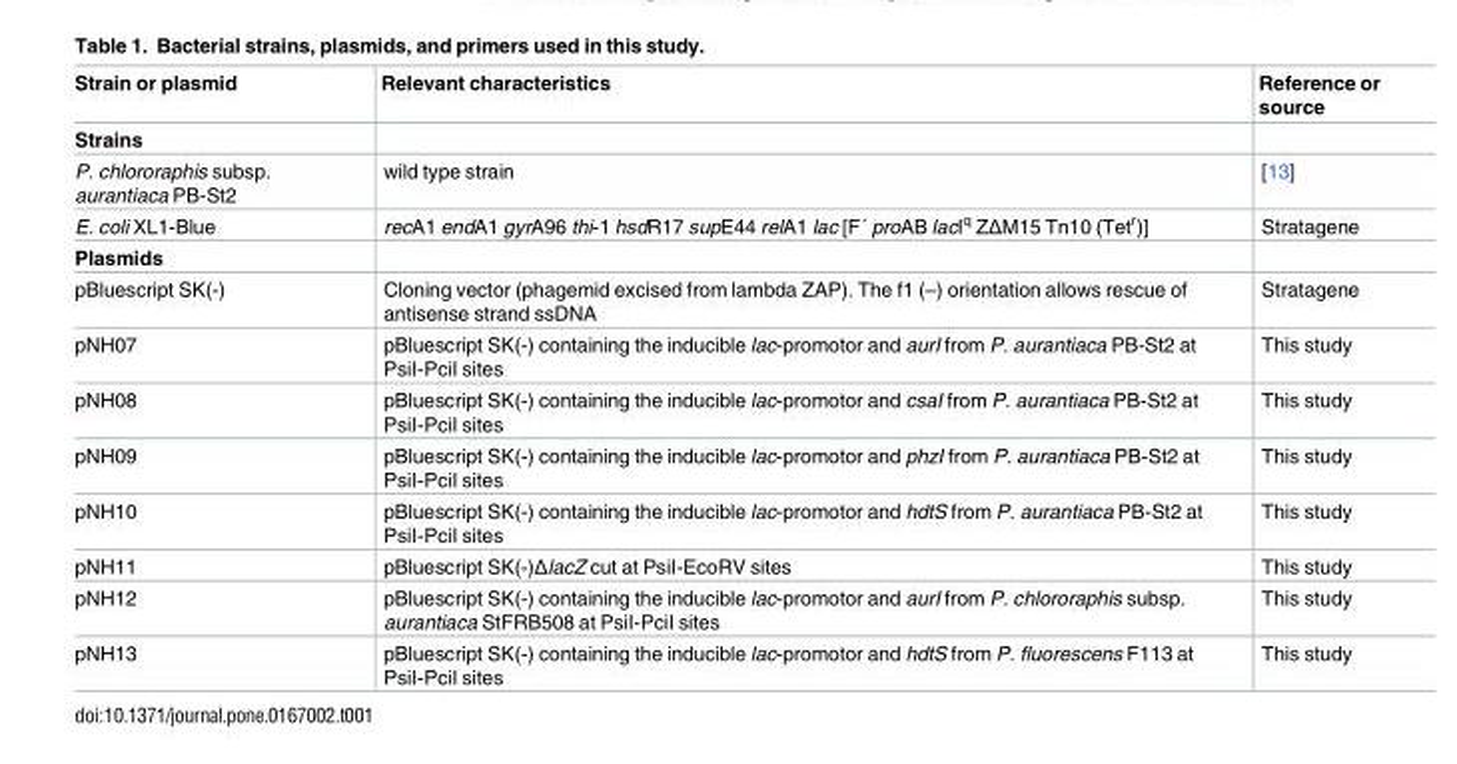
<table><thead><tr><td>Strain or plasmid</td><td>Relevant characteristics</td><td>Reference or source</td></tr></thead><tbody><tr><td colspan="3">Strains</td></tr><tr><td>P. chlororaphis subsp. aurantiaca PB-St2</td><td>wild type strain</td><td>[13]</td></tr><tr><td>E. coli XL1-Blue</td><td>recA1 endA1 gyrA96 thi-1 hsdR17 supE44 relA1 lac [F´ proAB lacI<sup>q</sup> ZΔM15 Tn10 (Tet<sup>r</sup>)]</td><td>Stratagene</td></tr><tr><td colspan="3">Plasmids</td></tr><tr><td>pBluescript SK(-)</td><td>Cloning vector (phagemid excised from lambda ZAP). The f1 (–) orientation allows rescue of antisense strand ssDNA</td><td>Stratagene</td></tr><tr><td>pNH07</td><td>pBluescript SK(-) containing the inducible lac-promotor and aurI from P. aurantiaca PB-St2 at PsiI-PciI sites</td><td>This study</td></tr><tr><td>pNH08</td><td>pBluescript SK(-) containing the inducible lac-promotor and csaI from P. aurantiaca PB-St2 at PsiI-PciI sites</td><td>This study</td></tr><tr><td>pNH09</td><td>pBluescript SK(-) containing the inducible lac-promotor and phzI from P. aurantiaca PB-St2 at PsiI-PciI sites</td><td>This study</td></tr><tr><td>pNH10</td><td>pBluescript SK(-) containing the inducible lac-promotor and hdtS from P. aurantiaca PB-St2 at PsiI-PciI sites</td><td>This study</td></tr><tr><td>pNH11</td><td>pBluescript SK(-)ΔlacZ cut at PsiI-EcoRV sites</td><td>This study</td></tr><tr><td>pNH12</td><td>pBluescript SK(-) containing the inducible lac-promotor and aurI from P. chlororaphis subsp. aurantiaca StFRB508 at PsiI-PciI sites</td><td>This study</td></tr><tr><td>pNH13</td><td>pBluescript SK(-) containing the inducible lac-promotor and hdtS from P. fluorescens F113 at PsiI-PciI sites</td><td>This study</td></tr></tbody></table>